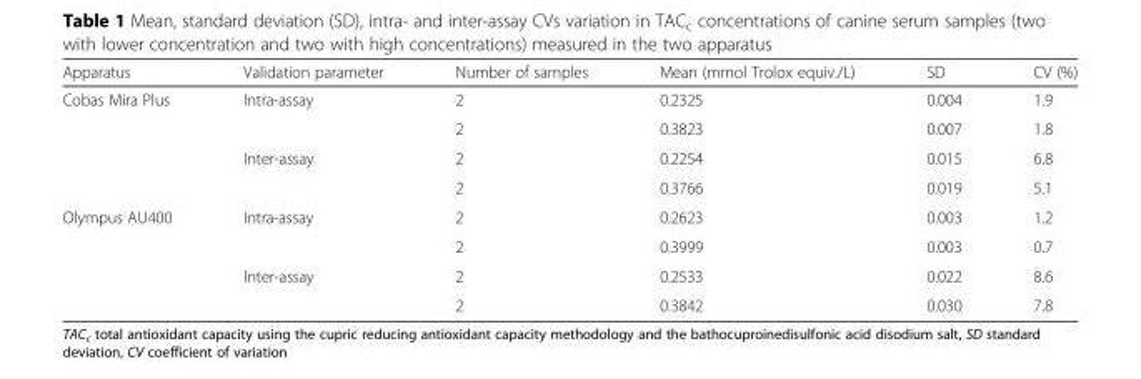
<table><thead><tr><td>Apparatus</td><td>Validation parameter</td><td>Number of samples</td><td>Mean (mmol Trolox equiv./L)</td><td>SD</td><td>CV (%)</td></tr></thead><tbody><tr><td rowspan="4">Cobas Mira Plus</td><td rowspan="2">Intra-assay</td><td>2</td><td>0.2325</td><td>0.004</td><td>1.9</td></tr><tr><td>2</td><td>0.3823</td><td>0.007</td><td>1.8</td></tr><tr><td rowspan="2">Inter-assay</td><td>2</td><td>0.2254</td><td>0.015</td><td>6.8</td></tr><tr><td>2</td><td>0.3766</td><td>0.019</td><td>5.1</td></tr><tr><td rowspan="4">Olympus AU400</td><td rowspan="2">Intra-assay</td><td>2</td><td>0.2623</td><td>0.003</td><td>1.2</td></tr><tr><td>2</td><td>0.3999</td><td>0.003</td><td>0.7</td></tr><tr><td rowspan="2">Inter-assay</td><td>2</td><td>0.2533</td><td>0.022</td><td>8.6</td></tr><tr><td>2</td><td>0.3842</td><td>0.030</td><td>7.8</td></tr></tbody></table>